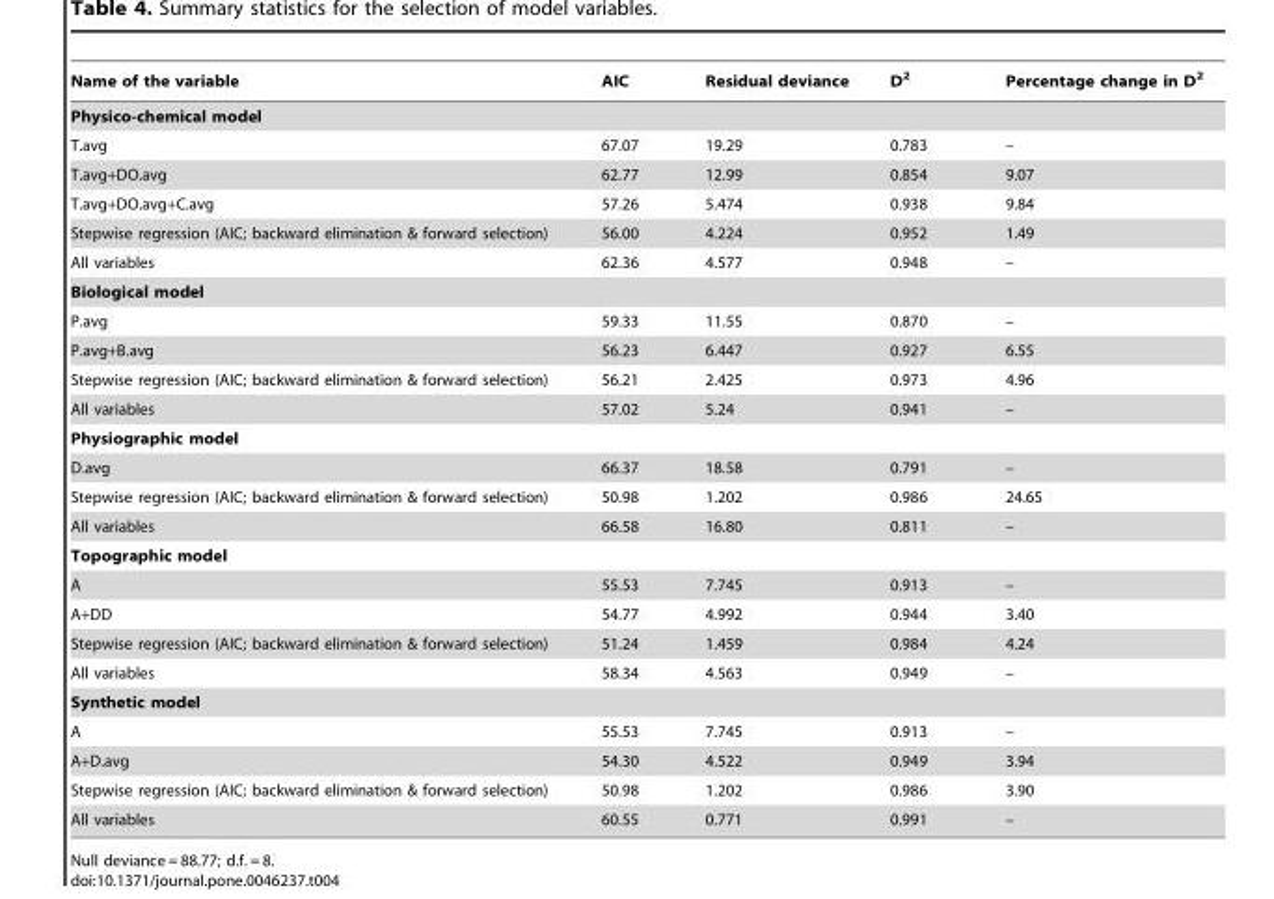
<table><thead><tr><td>Name of the variable</td><td>AIC</td><td>Residual deviance</td><td>D<sup>2</sup></td><td>Percentage change in D<sup>2</sup></td></tr></thead><tbody><tr><td colspan="5">Physico-chemical model</td></tr><tr><td>T.avg</td><td>67.07</td><td>19.29</td><td>0.783</td><td>–</td></tr><tr><td>T.avg+DO.avg</td><td>62.77</td><td>12.99</td><td>0.854</td><td>9.07</td></tr><tr><td>T.avg+DO.avg+C.avg</td><td>57.26</td><td>5.474</td><td>0.938</td><td>9.84</td></tr><tr><td>Stepwise regression (AIC; backward elimination &amp; forward selection)</td><td>56.00</td><td>4.224</td><td>0.952</td><td>1.49</td></tr><tr><td>All variables</td><td>62.36</td><td>4.577</td><td>0.948</td><td>–</td></tr><tr><td colspan="5">Biological model</td></tr><tr><td>P.avg</td><td>59.33</td><td>11.55</td><td>0.870</td><td>–</td></tr><tr><td>P.avg+B.avg</td><td>56.23</td><td>6.447</td><td>0.927</td><td>6.55</td></tr><tr><td>Stepwise regression (AIC; backward elimination &amp; forward selection)</td><td>56.21</td><td>2.425</td><td>0.973</td><td>4.96</td></tr><tr><td>All variables</td><td>57.02</td><td>5.24</td><td>0.941</td><td>–</td></tr><tr><td colspan="5">Physiographic model</td></tr><tr><td>D.avg</td><td>66.37</td><td>18.58</td><td>0.791</td><td>–</td></tr><tr><td>Stepwise regression (AIC; backward elimination &amp; forward selection)</td><td>50.98</td><td>1.202</td><td>0.986</td><td>24.65</td></tr><tr><td>All variables</td><td>66.58</td><td>16.80</td><td>0.811</td><td>–</td></tr><tr><td colspan="5">Topographic model</td></tr><tr><td>A</td><td>55.53</td><td>7.745</td><td>0.913</td><td>–</td></tr><tr><td>A+DD</td><td>54.77</td><td>4.992</td><td>0.944</td><td>3.40</td></tr><tr><td>Stepwise regression (AIC; backward elimination &amp; forward selection)</td><td>51.24</td><td>1.459</td><td>0.984</td><td>4.24</td></tr><tr><td>All variables</td><td>58.34</td><td>4.563</td><td>0.949</td><td>–</td></tr><tr><td colspan="5">Synthetic model</td></tr><tr><td>A</td><td>55.53</td><td>7.745</td><td>0.913</td><td>–</td></tr><tr><td>A+D.avg</td><td>54.30</td><td>4.522</td><td>0.949</td><td>3.94</td></tr><tr><td>Stepwise regression (AIC; backward elimination &amp; forward selection)</td><td>50.98</td><td>1.202</td><td>0.986</td><td>3.90</td></tr><tr><td>All variables</td><td>60.55</td><td>0.771</td><td>0.991</td><td>–</td></tr></tbody></table>